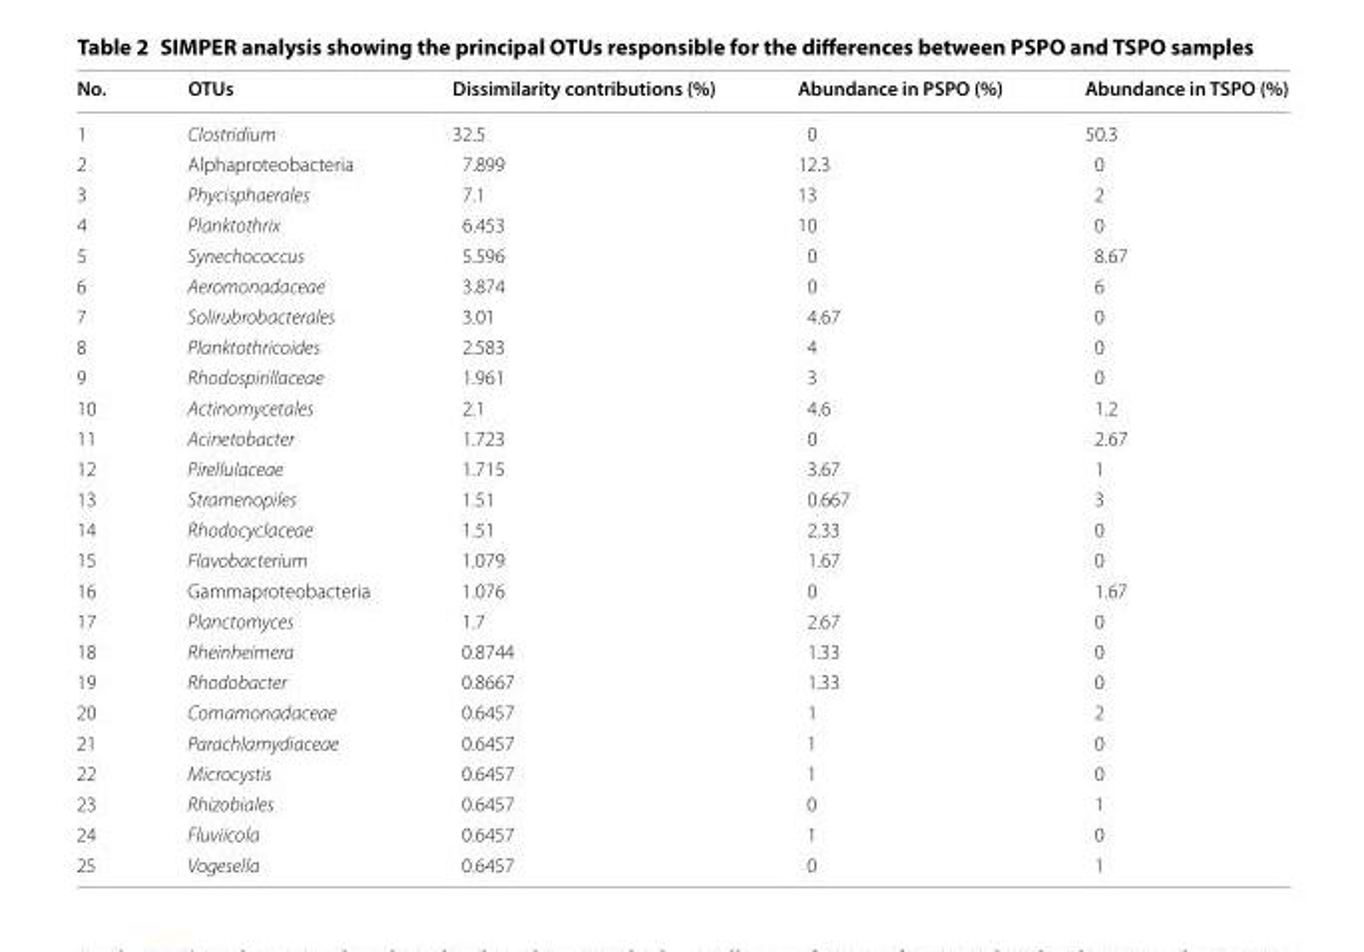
<table><thead><tr><td>No.</td><td>OTUs</td><td>Dissimilarity contributions (%)</td><td>Abundance in PSPO (%)</td><td>Abundance in TSPO (%)</td></tr></thead><tbody><tr><td>1</td><td>Clostridium</td><td>32.5</td><td>0</td><td>50.3</td></tr><tr><td>2</td><td>Alphaproteobacteria</td><td>7.899</td><td>12.3</td><td>0</td></tr><tr><td>3</td><td>Phycisphaerales</td><td>7.1</td><td>13</td><td>2</td></tr><tr><td>4</td><td>Planktothrix</td><td>6.453</td><td>10</td><td>0</td></tr><tr><td>5</td><td>Synechococcus</td><td>5.596</td><td>0</td><td>8.67</td></tr><tr><td>6</td><td>Aeromonadaceae</td><td>3.874</td><td>0</td><td>6</td></tr><tr><td>7</td><td>Solirubrobacterales</td><td>3.01</td><td>4.67</td><td>0</td></tr><tr><td>8</td><td>Planktothricoides</td><td>2.583</td><td>4</td><td>0</td></tr><tr><td>9</td><td>Rhodospirillaceae</td><td>1.961</td><td>3</td><td>0</td></tr><tr><td>10</td><td>Actinomycetales</td><td>2.1</td><td>4.6</td><td>1.2</td></tr><tr><td>11</td><td>Acinetobacter</td><td>1.723</td><td>0</td><td>2.67</td></tr><tr><td>12</td><td>Pirellulaceae</td><td>1.715</td><td>3.67</td><td>1</td></tr><tr><td>13</td><td>Stramenopiles</td><td>1.51</td><td>0.667</td><td>3</td></tr><tr><td>14</td><td>Rhodocyclaceae</td><td>1.51</td><td>2.33</td><td>0</td></tr><tr><td>15</td><td>Flavobacterium</td><td>1.079</td><td>1.67</td><td>0</td></tr><tr><td>16</td><td>Gammaproteobacteria</td><td>1.076</td><td>0</td><td>1.67</td></tr><tr><td>17</td><td>Planctomyces</td><td>1.7</td><td>2.67</td><td>0</td></tr><tr><td>18</td><td>Rheinheimera</td><td>0.8744</td><td>1.33</td><td>0</td></tr><tr><td>19</td><td>Rhodobacter</td><td>0.8667</td><td>1.33</td><td>0</td></tr><tr><td>20</td><td>Comamonadaceae</td><td>0.6457</td><td>1</td><td>2</td></tr><tr><td>21</td><td>Parachlamydiaceae</td><td>0.6457</td><td>1</td><td>0</td></tr><tr><td>22</td><td>Microcystis</td><td>0.6457</td><td>1</td><td>0</td></tr><tr><td>23</td><td>Rhizobiales</td><td>0.6457</td><td>0</td><td>1</td></tr><tr><td>24</td><td>Fluviicola</td><td>0.6457</td><td>1</td><td>0</td></tr><tr><td>25</td><td>Vogesella</td><td>0.6457</td><td>0</td><td>1</td></tr></tbody></table>